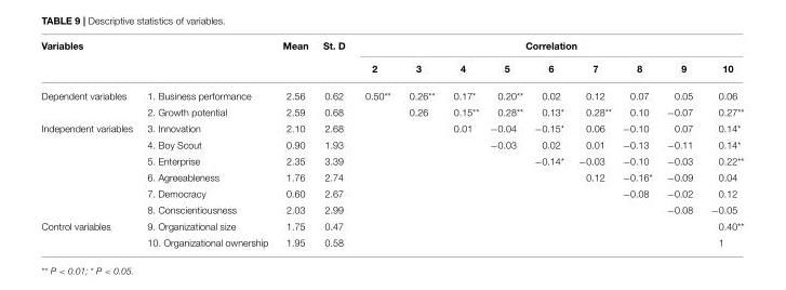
<table><thead><tr><td colspan="2">Variables</td><td rowspan="2">Mean</td><td rowspan="2">St. D</td><td colspan="9">Correlation</td></tr><tr><td></td><td></td><td>2</td><td>3</td><td>4</td><td>5</td><td>6</td><td>7</td><td>8</td><td>9</td><td>10</td></tr></thead><tbody><tr><td rowspan="2">Dependent variables</td><td>1. Business performance</td><td>2.56</td><td>0.62</td><td>0.50**</td><td>0.26**</td><td>0.17*</td><td>0.20**</td><td>0.02</td><td>0.12</td><td>0.07</td><td>0.05</td><td>0.06</td></tr><tr><td>2. Growth potential</td><td>2.59</td><td>0.68</td><td></td><td>0.26</td><td>0.15**</td><td>0.28**</td><td>0.13*</td><td>0.28**</td><td>0.10</td><td>−0.07</td><td>0.27**</td></tr><tr><td rowspan="6">Independent variables</td><td>3. Innovation</td><td>2.10</td><td>2.68</td><td></td><td></td><td>0.01</td><td>−0.04</td><td>−0.15*</td><td>0.06</td><td>−0.10</td><td>0.07</td><td>0.14*</td></tr><tr><td>4. Boy Scout</td><td>0.90</td><td>1.93</td><td></td><td></td><td></td><td>−0.03</td><td>0.02</td><td>0.01</td><td>−0.13</td><td>−0.11</td><td>0.14*</td></tr><tr><td>5. Enterprise</td><td>2.35</td><td>3.39</td><td></td><td></td><td></td><td></td><td>−0.14*</td><td>−0.03</td><td>−0.10</td><td>−0.03</td><td>0.22**</td></tr><tr><td>6. Agreeableness</td><td>1.76</td><td>2.74</td><td></td><td></td><td></td><td></td><td></td><td>0.12</td><td>−0.16*</td><td>−0.09</td><td>0.04</td></tr><tr><td>7. Democracy</td><td>0.60</td><td>2.67</td><td></td><td></td><td></td><td></td><td></td><td></td><td>−0.08</td><td>−0.02</td><td>0.12</td></tr><tr><td>8. Conscientiousness</td><td>2.03</td><td>2.99</td><td></td><td></td><td></td><td></td><td></td><td></td><td></td><td>−0.08</td><td>−0.05</td></tr><tr><td rowspan="2">Control variables</td><td>9. Organizational size</td><td>1.75</td><td>0.47</td><td></td><td></td><td></td><td></td><td></td><td></td><td></td><td></td><td>0.40**</td></tr><tr><td>10. Organizational ownership</td><td>1.95</td><td>0.58</td><td></td><td></td><td></td><td></td><td></td><td></td><td></td><td></td><td>1</td></tr></tbody></table>